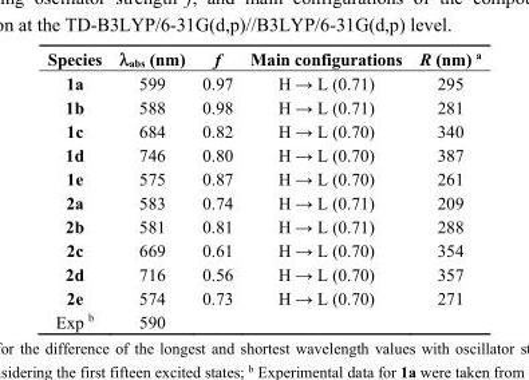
<table><thead><tr><td>Species</td><td>λ<sub>abs</sub> (nm)</td><td>f</td><td>Main configurations</td><td>R (nm) <sup>a</sup></td></tr></thead><tbody><tr><td>1a</td><td>599</td><td>0.97</td><td>H → L (0.71)</td><td>295</td></tr><tr><td>1b</td><td>588</td><td>0.98</td><td>H → L (0.71)</td><td>281</td></tr><tr><td>1c</td><td>684</td><td>0.82</td><td>H → L (0.70)</td><td>340</td></tr><tr><td>1d</td><td>746</td><td>0.80</td><td>H → L (0.70)</td><td>387</td></tr><tr><td>1e</td><td>575</td><td>0.87</td><td>H → L (0.70)</td><td>261</td></tr><tr><td>2a</td><td>583</td><td>0.74</td><td>H → L (0.71)</td><td>209</td></tr><tr><td>2b</td><td>581</td><td>0.81</td><td>H → L (0.71)</td><td>288</td></tr><tr><td>2c</td><td>669</td><td>0.61</td><td>H → L (0.70)</td><td>354</td></tr><tr><td>2d</td><td>716</td><td>0.56</td><td>H → L (0.70)</td><td>357</td></tr><tr><td>2e</td><td>574</td><td>0.73</td><td>H → L (0.70)</td><td>271</td></tr><tr><td>Exp <sup>b</sup></td><td>590</td><td></td><td></td><td></td></tr></tbody></table>